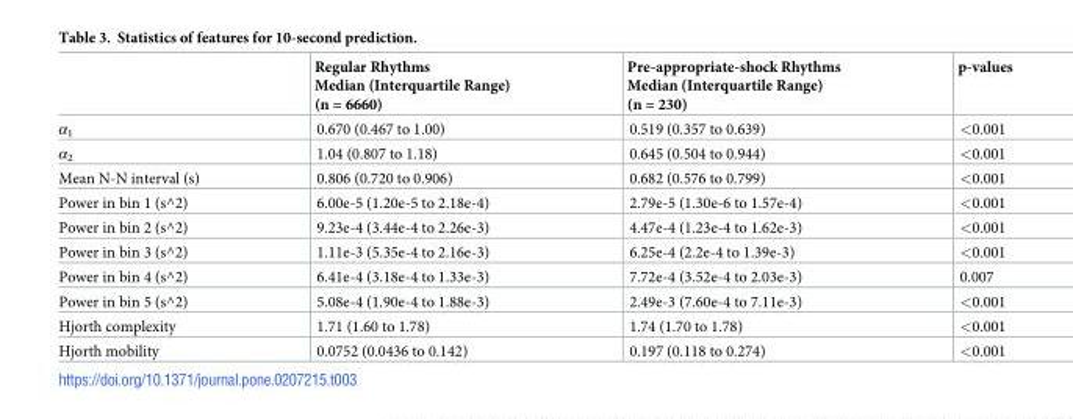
<table><thead><tr><td></td><td>Regular Rhythms Median (Interquartile Range) (n = 6660)</td><td>Pre-appropriate-shock Rhythms Median (Interquartile Range) (n = 230)</td><td>p-values</td></tr></thead><tbody><tr><td>α<sub>1</sub></td><td>0.670 (0.467 to 1.00)</td><td>0.519 (0.357 to 0.639)</td><td>&lt;0.001</td></tr><tr><td>α<sub>2</sub></td><td>1.04 (0.807 to 1.18)</td><td>0.645 (0.504 to 0.944)</td><td>&lt;0.001</td></tr><tr><td>Mean N-N interval (s)</td><td>0.806 (0.720 to 0.906)</td><td>0.682 (0.576 to 0.799)</td><td>&lt;0.001</td></tr><tr><td>Power in bin 1 (s^2)</td><td>6.00e-5 (1.20e-5 to 2.18e-4)</td><td>2.79e-5 (1.30e-6 to 1.57e-4)</td><td>&lt;0.001</td></tr><tr><td>Power in bin 2 (s^2)</td><td>9.23e-4 (3.44e-4 to 2.26e-3)</td><td>4.47e-4 (1.23e-4 to 1.62e-3)</td><td>&lt;0.001</td></tr><tr><td>Power in bin 3 (s^2)</td><td>1.11e-3 (5.35e-4 to 2.16e-3)</td><td>6.25e-4 (2.2e-4 to 1.39e-3)</td><td>&lt;0.001</td></tr><tr><td>Power in bin 4 (s^2)</td><td>6.41e-4 (3.18e-4 to 1.33e-3)</td><td>7.72e-4 (3.52e-4 to 2.03e-3)</td><td>0.007</td></tr><tr><td>Power in bin 5 (s^2)</td><td>5.08e-4 (1.90e-4 to 1.88e-3)</td><td>2.49e-3 (7.60e-4 to 7.11e-3)</td><td>&lt;0.001</td></tr><tr><td>Hjorth complexity</td><td>1.71 (1.60 to 1.78)</td><td>1.74 (1.70 to 1.78)</td><td>&lt;0.001</td></tr><tr><td>Hjorth mobility</td><td>0.0752 (0.0436 to 0.142)</td><td>0.197 (0.118 to 0.274)</td><td>&lt;0.001</td></tr></tbody></table>